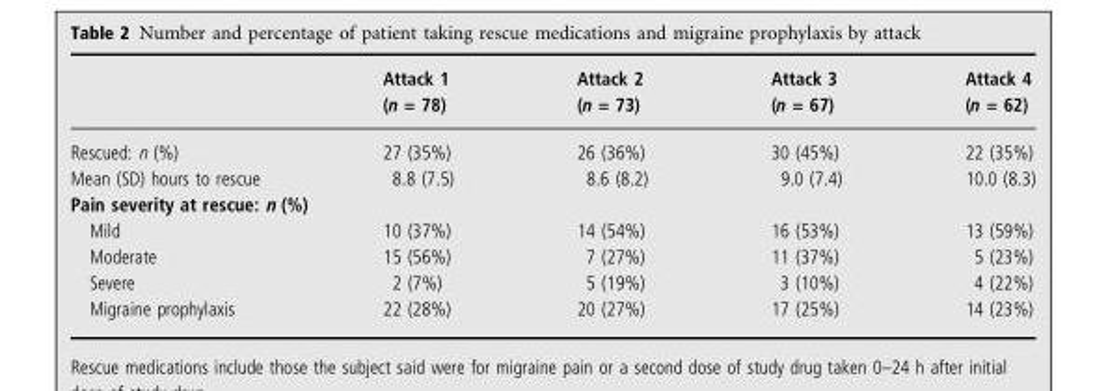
<table><thead><tr><td></td><td>Attack 1 (n = 78)</td><td>Attack 2 (n = 73)</td><td>Attack 3 (n = 67)</td><td>Attack 4 (n = 62)</td></tr></thead><tbody><tr><td>Rescued: n (%)</td><td>27 (35%)</td><td>26 (36%)</td><td>30 (45%)</td><td>22 (35%)</td></tr><tr><td>Mean (SD) hours to rescue</td><td>8.8 (7.5)</td><td>8.6 (8.2)</td><td>9.0 (7.4)</td><td>10.0 (8.3)</td></tr><tr><td colspan="5">Pain severity at rescue: n (%)</td></tr><tr><td>Mild</td><td>10 (37%)</td><td>14 (54%)</td><td>16 (53%)</td><td>13 (59%)</td></tr><tr><td>Moderate</td><td>15 (56%)</td><td>7 (27%)</td><td>11 (37%)</td><td>5 (23%)</td></tr><tr><td>Severe</td><td>2 (7%)</td><td>5 (19%)</td><td>3 (10%)</td><td>4 (22%)</td></tr><tr><td>Migraine prophylaxis</td><td>22 (28%)</td><td>20 (27%)</td><td>17 (25%)</td><td>14 (23%)</td></tr></tbody></table>